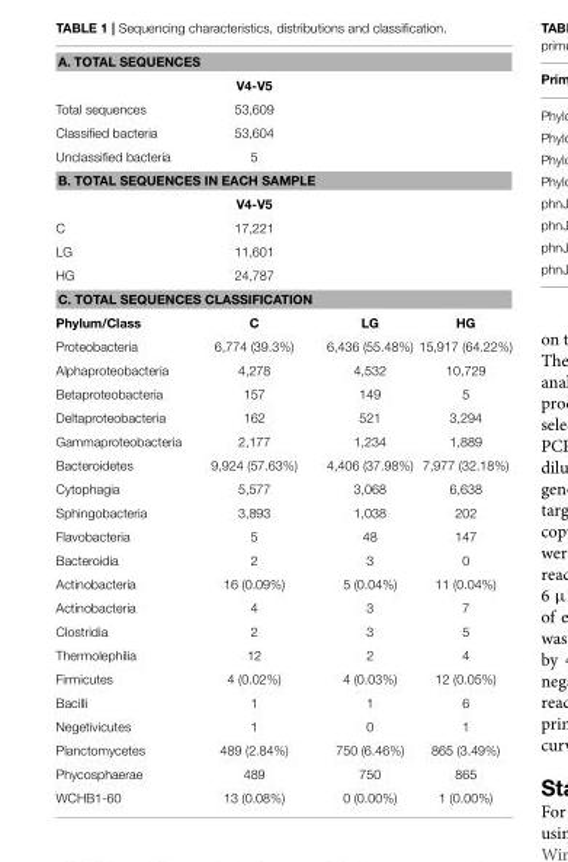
<table><thead><tr><td colspan="4">A. TOTAL SEQUENCES</td></tr><tr><td></td><td>V4-V5</td><td></td><td></td></tr></thead><tbody><tr><td>Total sequences</td><td>53,609</td><td></td><td></td></tr><tr><td>Classified bacteria</td><td>53,604</td><td></td><td></td></tr><tr><td>Unclassified bacteria</td><td>5</td><td></td><td></td></tr><tr><td colspan="4">B. TOTAL SEQUENCES IN EACH SAMPLE</td></tr><tr><td></td><td>V4-V5</td><td></td><td></td></tr><tr><td>C</td><td>17,221</td><td></td><td></td></tr><tr><td>LG</td><td>11,601</td><td></td><td></td></tr><tr><td>HG</td><td>24,787</td><td></td><td></td></tr><tr><td colspan="4">C. TOTAL SEQUENCES CLASSIFICATION</td></tr><tr><td>Phylum/Class</td><td>C</td><td>LG</td><td>HG</td></tr><tr><td>Proteobacteria</td><td>6,774 (39.3%)</td><td>6,436 (55.48%)</td><td>15,917 (64.22%)</td></tr><tr><td>Alphaproteobacteria</td><td>4,278</td><td>4,532</td><td>10,729</td></tr><tr><td>Betaproteobacteria</td><td>157</td><td>149</td><td>5</td></tr><tr><td>Deltaproteobacteria</td><td>162</td><td>521</td><td>3,294</td></tr><tr><td>Gammaproteobacteria</td><td>2,177</td><td>1,234</td><td>1,889</td></tr><tr><td>Bacteroidetes</td><td>9,924 (57.63%)</td><td>4,406 (37.98%)</td><td>7,977 (32.18%)</td></tr><tr><td>Cytophagia</td><td>5,577</td><td>3,068</td><td>6,638</td></tr><tr><td>Sphingobacteria</td><td>3,893</td><td>1,038</td><td>202</td></tr><tr><td>Flavobacteria</td><td>5</td><td>48</td><td>147</td></tr><tr><td>Bacteroidia</td><td>2</td><td>3</td><td>0</td></tr><tr><td>Actinobacteria</td><td>16 (0.09%)</td><td>5 (0.04%)</td><td>11 (0.04%)</td></tr><tr><td>Actinobacteria</td><td>4</td><td>3</td><td>7</td></tr><tr><td>Clostridia</td><td>2</td><td>3</td><td>5</td></tr><tr><td>Thermolephilia</td><td>12</td><td>2</td><td>4</td></tr><tr><td>Firmicutes</td><td>4 (0.02%)</td><td>4 (0.03%)</td><td>12 (0.05%)</td></tr><tr><td>Bacilli</td><td>1</td><td>1</td><td>6</td></tr><tr><td>Negetivicutes</td><td>1</td><td>0</td><td>1</td></tr><tr><td>Planctomycetes</td><td>489 (2.84%)</td><td>750 (6.46%)</td><td>865 (3.49%)</td></tr><tr><td>Phycosphaerae</td><td>489</td><td>750</td><td>865</td></tr><tr><td>WCHB1-60</td><td>13 (0.08%)</td><td>0 (0.00%)</td><td>1 (0.00%)</td></tr></tbody></table>